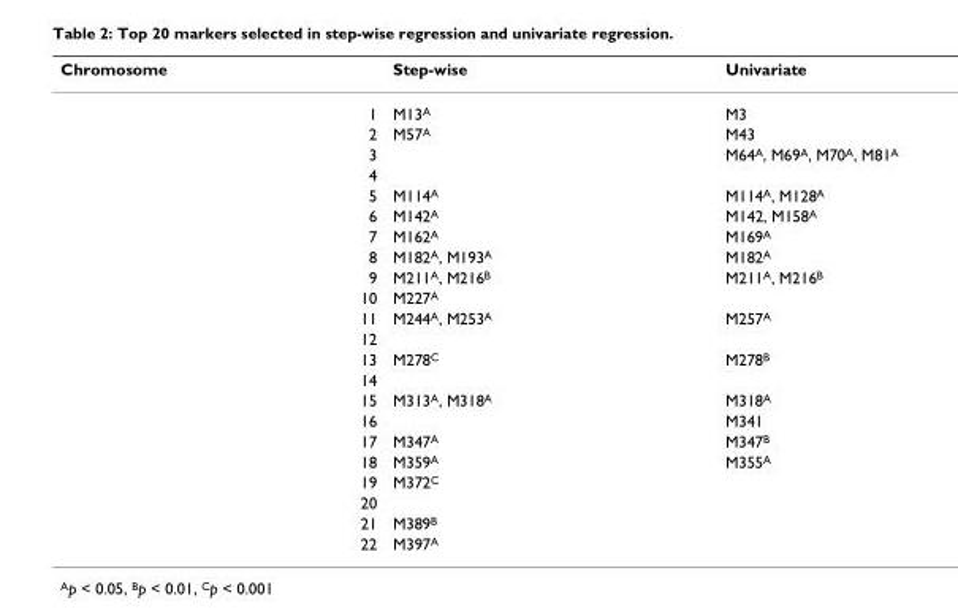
<table><thead><tr><td>Chromosome</td><td>Step-wise</td><td>Univariate</td></tr></thead><tbody><tr><td>1</td><td>M13A</td><td>M3</td></tr><tr><td>2</td><td>M57A</td><td>M43</td></tr><tr><td>3</td><td></td><td>M64A, M69A, M70A, M81A</td></tr><tr><td colspan="3">4</td></tr><tr><td>5</td><td>M114A</td><td>M114A, M128A</td></tr><tr><td>6</td><td>M142A</td><td>M142, M158A</td></tr><tr><td>7</td><td>M162A</td><td>M169A</td></tr><tr><td>8</td><td>M182A, M193A</td><td>M182A</td></tr><tr><td>9</td><td>M211A, M216B</td><td>M211A, M216B</td></tr><tr><td>10</td><td>M227A</td><td></td></tr><tr><td>11</td><td>M244A, M253A</td><td>M257A</td></tr><tr><td colspan="3">12</td></tr><tr><td>13</td><td>M278C</td><td>M278B</td></tr><tr><td colspan="3">14</td></tr><tr><td>15</td><td>M313A, M318A</td><td>M318A</td></tr><tr><td>16</td><td></td><td>M341</td></tr><tr><td>17</td><td>M347A</td><td>M347B</td></tr><tr><td>18</td><td>M359A</td><td>M355A</td></tr><tr><td>19</td><td>M372C</td><td></td></tr><tr><td colspan="3">20</td></tr><tr><td>21</td><td>M389B</td><td></td></tr><tr><td>22</td><td>M397A</td><td></td></tr></tbody></table>